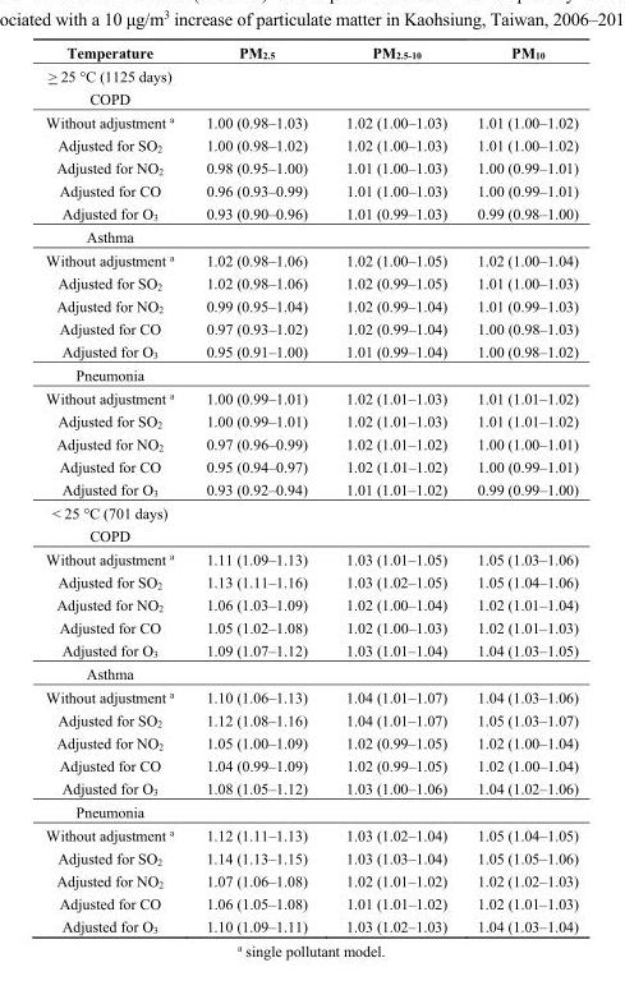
<table><thead><tr><td>Temperature</td><td>PM<sub>2.5</sub></td><td>PM<sub>2.5-10</sub></td><td>PM<sub>10</sub></td></tr></thead><tbody><tr><td colspan="4">&gt; 25 °C (1125 days)</td></tr><tr><td colspan="4">COPD</td></tr><tr><td>Without adjustment <sup>a</sup></td><td>1.00 (0.98–1.03)</td><td>1.02 (1.00–1.03)</td><td>1.01 (1.00–1.02)</td></tr><tr><td>Adjusted for SO<sub>2</sub></td><td>1.00 (0.98–1.02)</td><td>1.02 (1.00–1.03)</td><td>1.01 (1.00–1.02)</td></tr><tr><td>Adjusted for NO<sub>2</sub></td><td>0.98 (0.95–1.00)</td><td>1.01 (1.00–1.03)</td><td>1.00 (0.99–1.01)</td></tr><tr><td>Adjusted for CO</td><td>0.96 (0.93–0.99)</td><td>1.01 (1.00–1.03)</td><td>1.00 (0.99–1.01)</td></tr><tr><td>Adjusted for O<sub>3</sub></td><td>0.93 (0.90–0.96)</td><td>1.01 (0.99–1.03)</td><td>0.99 (0.98–1.00)</td></tr><tr><td colspan="4">Asthma</td></tr><tr><td>Without adjustment <sup>a</sup></td><td>1.02 (0.98–1.06)</td><td>1.02 (1.00–1.05)</td><td>1.02 (1.00–1.04)</td></tr><tr><td>Adjusted for SO<sub>2</sub></td><td>1.02 (0.98–1.06)</td><td>1.02 (0.99–1.05)</td><td>1.01 (1.00–1.03)</td></tr><tr><td>Adjusted for NO<sub>2</sub></td><td>0.99 (0.95–1.04)</td><td>1.02 (0.99–1.04)</td><td>1.01 (0.99–1.03)</td></tr><tr><td>Adjusted for CO</td><td>0.97 (0.93–1.02)</td><td>1.02 (0.99–1.04)</td><td>1.00 (0.98–1.03)</td></tr><tr><td>Adjusted for O<sub>3</sub></td><td>0.95 (0.91–1.00)</td><td>1.01 (0.99–1.04)</td><td>1.00 (0.98–1.02)</td></tr><tr><td colspan="4">Pneumonia</td></tr><tr><td>Without adjustment <sup>a</sup></td><td>1.00 (0.99–1.01)</td><td>1.02 (1.01–1.03)</td><td>1.01 (1.01–1.02)</td></tr><tr><td>Adjusted for SO<sub>2</sub></td><td>1.00 (0.99–1.01)</td><td>1.02 (1.01–1.03)</td><td>1.01 (1.01–1.02)</td></tr><tr><td>Adjusted for NO<sub>2</sub></td><td>0.97 (0.96–0.99)</td><td>1.02 (1.01–1.02)</td><td>1.00 (1.00–1.01)</td></tr><tr><td>Adjusted for CO</td><td>0.95 (0.94–0.97)</td><td>1.02 (1.01–1.02)</td><td>1.00 (0.99–1.01)</td></tr><tr><td>Adjusted for O<sub>3</sub></td><td>0.93 (0.92–0.94)</td><td>1.01 (1.01–1.02)</td><td>0.99 (0.99–1.00)</td></tr><tr><td colspan="4">&lt; 25 °C (701 days)</td></tr><tr><td colspan="4">COPD</td></tr><tr><td>Without adjustment <sup>a</sup></td><td>1.11 (1.09–1.13)</td><td>1.03 (1.01–1.05)</td><td>1.05 (1.03–1.06)</td></tr><tr><td>Adjusted for SO<sub>2</sub></td><td>1.13 (1.11–1.16)</td><td>1.03 (1.02–1.05)</td><td>1.05 (1.04–1.06)</td></tr><tr><td>Adjusted for NO<sub>2</sub></td><td>1.06 (1.03–1.09)</td><td>1.02 (1.00–1.04)</td><td>1.02 (1.01–1.04)</td></tr><tr><td>Adjusted for CO</td><td>1.05 (1.02–1.08)</td><td>1.02 (1.00–1.03)</td><td>1.02 (1.01–1.03)</td></tr><tr><td>Adjusted for O<sub>3</sub></td><td>1.09 (1.07–1.12)</td><td>1.03 (1.01–1.04)</td><td>1.04 (1.03–1.05)</td></tr><tr><td colspan="4">Asthma</td></tr><tr><td>Without adjustment <sup>a</sup></td><td>1.10 (1.06–1.13)</td><td>1.04 (1.01–1.07)</td><td>1.04 (1.03–1.06)</td></tr><tr><td>Adjusted for SO<sub>2</sub></td><td>1.12 (1.08–1.16)</td><td>1.04 (1.01–1.07)</td><td>1.05 (1.03–1.07)</td></tr><tr><td>Adjusted for NO<sub>2</sub></td><td>1.05 (1.00–1.09)</td><td>1.02 (0.99–1.05)</td><td>1.02 (1.00–1.04)</td></tr><tr><td>Adjusted for CO</td><td>1.04 (0.99–1.09)</td><td>1.02 (0.99–1.05)</td><td>1.02 (1.00–1.04)</td></tr><tr><td>Adjusted for O<sub>3</sub></td><td>1.08 (1.05–1.12)</td><td>1.03 (1.00–1.06)</td><td>1.04 (1.02–1.06)</td></tr><tr><td colspan="4">Pneumonia</td></tr><tr><td>Without adjustment <sup>a</sup></td><td>1.12 (1.11–1.13)</td><td>1.03 (1.02–1.04)</td><td>1.05 (1.04–1.05)</td></tr><tr><td>Adjusted for SO<sub>2</sub></td><td>1.14 (1.13–1.15)</td><td>1.03 (1.03–1.04)</td><td>1.05 (1.05–1.06)</td></tr><tr><td>Adjusted for NO<sub>2</sub></td><td>1.07 (1.06–1.08)</td><td>1.02 (1.01–1.02)</td><td>1.02 (1.02–1.03)</td></tr><tr><td>Adjusted for CO</td><td>1.06 (1.05–1.08)</td><td>1.01 (1.01–1.02)</td><td>1.02 (1.01–1.03)</td></tr><tr><td>Adjusted for O<sub>3</sub></td><td>1.10 (1.09–1.11)</td><td>1.03 (1.02–1.03)</td><td>1.04 (1.03–1.04)</td></tr></tbody></table>